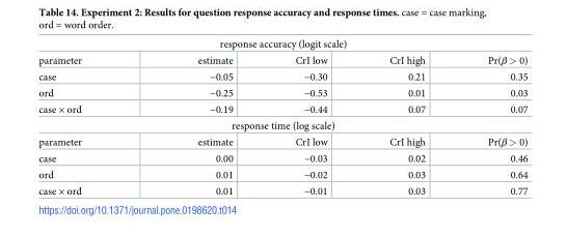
<table><tbody><tr><td colspan="5">response accuracy (logit scale)</td></tr><tr><td>parameter</td><td>estimate</td><td>CrI low</td><td>CrI high</td><td>Pr(β &gt; 0)</td></tr><tr><td>case</td><td>−0.05</td><td>−0.30</td><td>0.21</td><td>0.35</td></tr><tr><td>ord</td><td>−0.25</td><td>−0.53</td><td>0.01</td><td>0.03</td></tr><tr><td>case × ord</td><td>−0.19</td><td>−0.44</td><td>0.07</td><td>0.07</td></tr><tr><td colspan="5">response time (log scale)</td></tr><tr><td>parameter</td><td>estimate</td><td>CrI low</td><td>CrI high</td><td>Pr(β &gt; 0)</td></tr><tr><td>case</td><td>0.00</td><td>−0.03</td><td>0.02</td><td>0.46</td></tr><tr><td>ord</td><td>0.01</td><td>−0.02</td><td>0.03</td><td>0.64</td></tr><tr><td>case × ord</td><td>0.01</td><td>−0.01</td><td>0.03</td><td>0.77</td></tr></tbody></table>